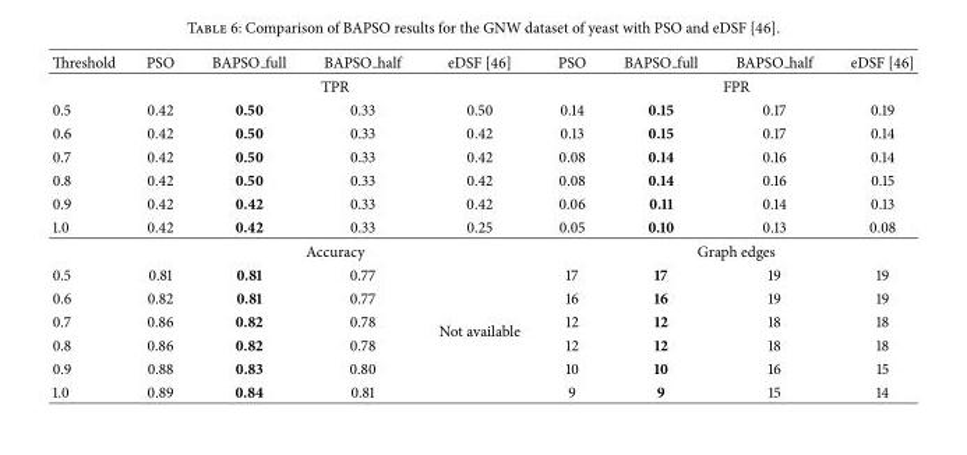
<table><thead><tr><td>Threshold</td><td>PSO</td><td>BAPSO full</td><td>BAPSO half</td><td>eDSF [46]</td><td>PSO</td><td>BAPSO full</td><td>BAPSO half</td><td>eDSF [46]</td></tr></thead><tbody><tr><td></td><td colspan="4">TPR</td><td colspan="4">FPR</td></tr><tr><td>0.5</td><td>0.42</td><td>0.50</td><td>0.33</td><td>0.50</td><td>0.14</td><td>0.15</td><td>0.17</td><td>0.19</td></tr><tr><td>0.6</td><td>0.42</td><td>0.50</td><td>0.33</td><td>0.42</td><td>0.13</td><td>0.15</td><td>0.17</td><td>0.14</td></tr><tr><td>0.7</td><td>0.42</td><td>0.50</td><td>0.33</td><td>0.42</td><td>0.08</td><td>0.14</td><td>0.16</td><td>0.14</td></tr><tr><td>0.8</td><td>0.42</td><td>0.50</td><td>0.33</td><td>0.42</td><td>0.08</td><td>0.14</td><td>0.16</td><td>0.15</td></tr><tr><td>0.9</td><td>0.42</td><td>0.42</td><td>0.33</td><td>0.42</td><td>0.06</td><td>0.11</td><td>0.14</td><td>0.13</td></tr><tr><td rowspan="2">1.0</td><td>0.42</td><td>0.42</td><td>0.33</td><td>0.25</td><td>0.05</td><td>0.10</td><td>0.13</td><td>0.08</td></tr><tr><td colspan="4">Accuracy</td><td colspan="4">Graph edges</td></tr><tr><td>0.5</td><td>0.81</td><td>0.81</td><td>0.77</td><td rowspan="6">Not available</td><td>17</td><td>17</td><td>19</td><td>19</td></tr><tr><td>0.6</td><td>0.82</td><td>0.81</td><td>0.77</td><td>16</td><td>16</td><td>19</td><td>19</td></tr><tr><td>0.7</td><td>0.86</td><td>0.82</td><td>0.78</td><td>12</td><td>12</td><td>18</td><td>18</td></tr><tr><td>0.8</td><td>0.86</td><td>0.82</td><td>0.78</td><td>12</td><td>12</td><td>18</td><td>18</td></tr><tr><td>0.9</td><td>0.88</td><td>0.83</td><td>0.80</td><td>10</td><td>10</td><td>16</td><td>15</td></tr><tr><td>1.0</td><td>0.89</td><td>0.84</td><td>0.81</td><td>9</td><td>9</td><td>15</td><td>14</td></tr></tbody></table>